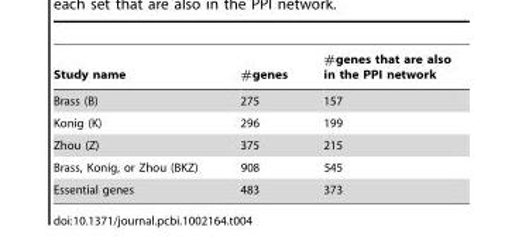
<table><thead><tr><td>Study name</td><td>#genes</td><td>#genes that are also in the PPI network</td></tr></thead><tbody><tr><td>Brass (B)</td><td>275</td><td>157</td></tr><tr><td>Konig (K)</td><td>296</td><td>199</td></tr><tr><td>Zhou (Z)</td><td>375</td><td>215</td></tr><tr><td>Brass, Konig, or Zhou (BKZ)</td><td>908</td><td>545</td></tr><tr><td>Essential genes</td><td>483</td><td>373</td></tr></tbody></table>